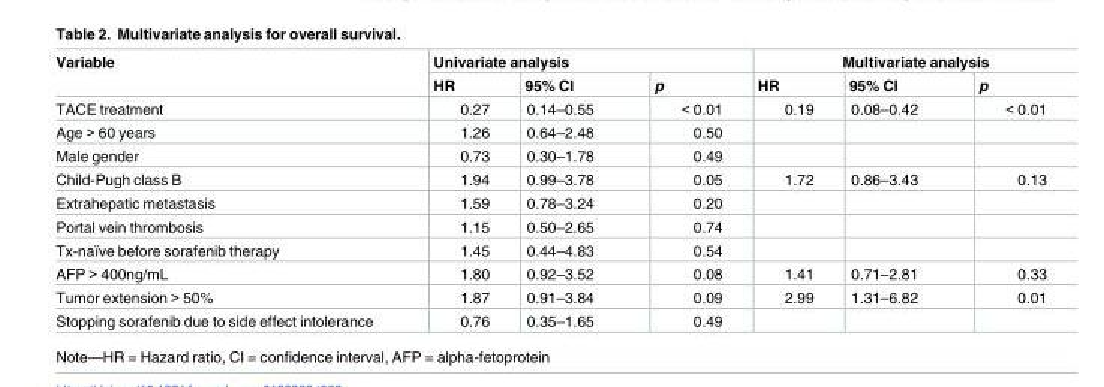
<table><thead><tr><td rowspan="2">Variable</td><td colspan="3">Univariate analysis</td><td colspan="3">Multivariate analysis</td></tr><tr><td>HR</td><td>95% CI</td><td>p</td><td>HR</td><td>95% CI</td><td>p</td></tr></thead><tbody><tr><td>TACE treatment</td><td>0.27</td><td>0.14–0.55</td><td>&lt; 0.01</td><td>0.19</td><td>0.08–0.42</td><td>&lt; 0.01</td></tr><tr><td>Age &gt; 60 years</td><td>1.26</td><td>0.64–2.48</td><td>0.50</td><td></td><td></td><td></td></tr><tr><td>Male gender</td><td>0.73</td><td>0.30–1.78</td><td>0.49</td><td></td><td></td><td></td></tr><tr><td>Child-Pugh class B</td><td>1.94</td><td>0.99–3.78</td><td>0.05</td><td>1.72</td><td>0.86–3.43</td><td>0.13</td></tr><tr><td>Extrahepatic metastasis</td><td>1.59</td><td>0.78–3.24</td><td>0.20</td><td></td><td></td><td></td></tr><tr><td>Portal vein thrombosis</td><td>1.15</td><td>0.50–2.65</td><td>0.74</td><td></td><td></td><td></td></tr><tr><td>Tx-naïve before sorafenib therapy</td><td>1.45</td><td>0.44–4.83</td><td>0.54</td><td></td><td></td><td></td></tr><tr><td>AFP &gt; 400ng/mL</td><td>1.80</td><td>0.92–3.52</td><td>0.08</td><td>1.41</td><td>0.71–2.81</td><td>0.33</td></tr><tr><td>Tumor extension &gt; 50%</td><td>1.87</td><td>0.91–3.84</td><td>0.09</td><td>2.99</td><td>1.31–6.82</td><td>0.01</td></tr><tr><td>Stopping sorafenib due to side effect intolerance</td><td>0.76</td><td>0.35–1.65</td><td>0.49</td><td></td><td></td><td></td></tr></tbody></table>